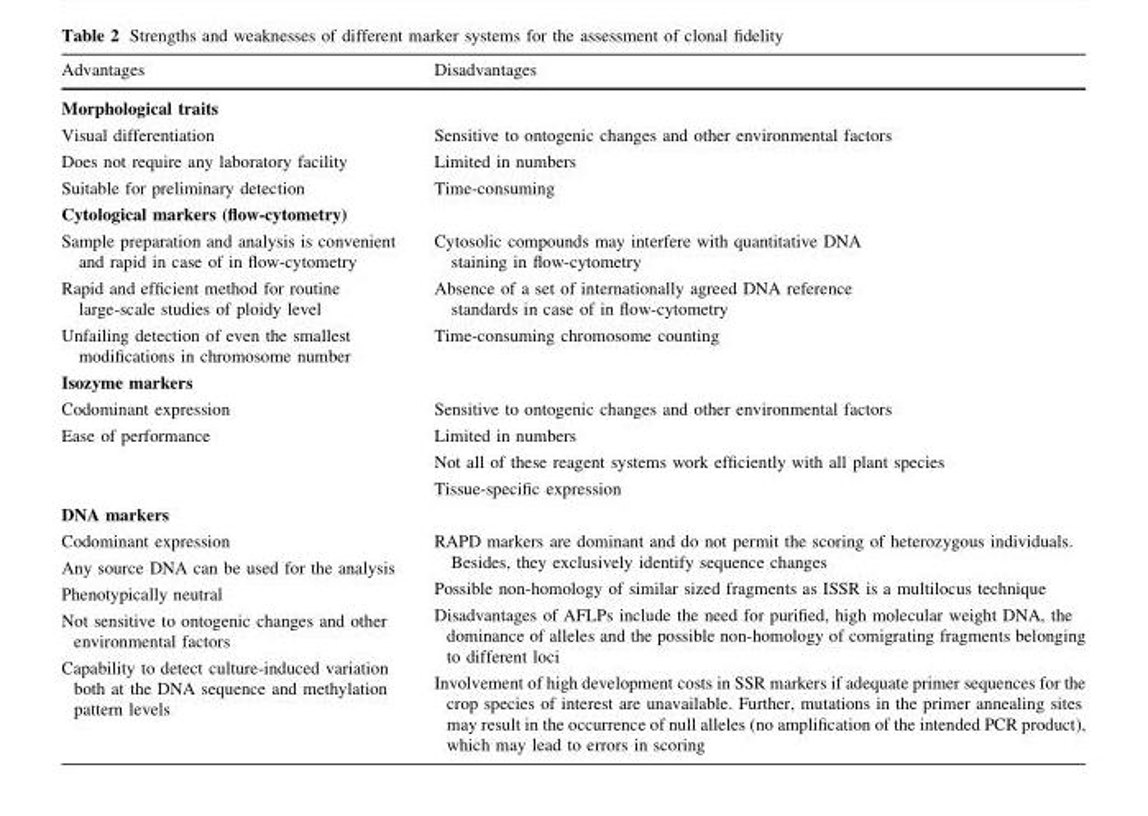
<table><thead><tr><td>Advantages</td><td>Disadvantages</td></tr></thead><tbody><tr><td colspan="2">Morphological traits</td></tr><tr><td>Visual differentiation</td><td>Sensitive to ontogenic changes and other environmental factors</td></tr><tr><td>Does not require any laboratory facility</td><td>Limited in numbers</td></tr><tr><td>Suitable for preliminary detection</td><td>Time-consuming</td></tr><tr><td colspan="2">Cytological markers (flow-cytometry)</td></tr><tr><td>Sample preparation and analysis is convenient and rapid in case of in flow-cytometry</td><td>Cytosolic compounds may interfere with quantitative DNA staining in flow-cytometry</td></tr><tr><td>Rapid and efficient method for routine large-scale studies of ploidy level</td><td>Absence of a set of internationally agreed DNA reference standards in case of in flow-cytometry</td></tr><tr><td>Unfailing detection of even the smallest modifications in chromosome number</td><td>Time-consuming chromosome counting</td></tr><tr><td colspan="2">Isozyme markers</td></tr><tr><td>Codominant expression</td><td>Sensitive to ontogenic changes and other environmental factors</td></tr><tr><td>Ease of performance</td><td>Limited in numbers Not all of these reagent systems work efficiently with all plant species Tissue-specific expression</td></tr><tr><td colspan="2">DNA markers</td></tr><tr><td>Codominant expression Any source DNA can be used for the analysis Phenotypically neutral Not sensitive to ontogenic changes and other environmental factors Capability to detect culture-induced variation both at the DNA sequence and methylation pattern levels</td><td>RAPD markers are dominant and do not permit the scoring of heterozygous individuals. Besides, they exclusively identify sequence changes Possible non-homology of similar sized fragments as ISSR is a multilocus technique Disadvantages of AFLPs include the need for purified, high molecular weight DNA, the dominance of alleles and the possible non-homology of comigrating fragments belonging to different loci Involvement of high development costs in SSR markers if adequate primer sequences for the crop species of interest are unavailable. Further, mutations in the primer annealing sites may result in the occurrence of null alleles (no amplification of the intended PCR product), which may lead to errors in scoring</td></tr></tbody></table>